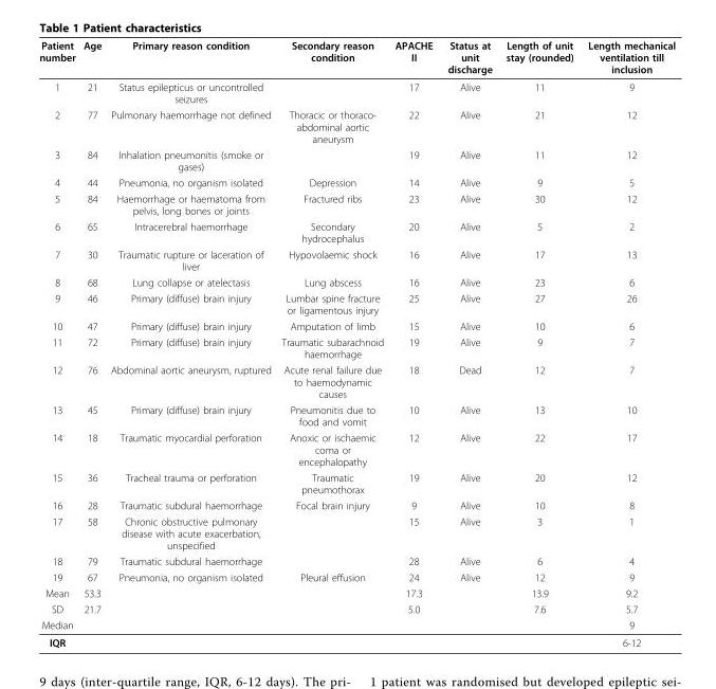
<table><thead><tr><td>Patient number</td><td>Age</td><td>Primary reason condition</td><td>Secondary reason condition</td><td>APACHE II</td><td>Status at unit discharge</td><td>Length of unit stay (rounded)</td><td>Length mechanical ventilation till inclusion</td></tr></thead><tbody><tr><td>1</td><td>21</td><td>Status epilepticus or uncontrolled seizures</td><td></td><td>17</td><td>Alive</td><td>11</td><td>9</td></tr><tr><td>2</td><td>77</td><td>Pulmonary haemorrhage not defined</td><td>Thoracic or thoraco- abdominal aortic aneurysm</td><td>22</td><td>Alive</td><td>21</td><td>12</td></tr><tr><td>3</td><td>84</td><td>Inhalation pneumonitis (smoke or gases)</td><td></td><td>19</td><td>Alive</td><td>11</td><td>12</td></tr><tr><td>4</td><td>44</td><td>Pneumonia, no organism isolated</td><td>Depression</td><td>14</td><td>Alive</td><td>9</td><td>5</td></tr><tr><td>5</td><td>84</td><td>Haemorrhage or haematoma from pelvis, long bones or joints</td><td>Fractured ribs</td><td>23</td><td>Alive</td><td>30</td><td>12</td></tr><tr><td>6</td><td>65</td><td>Intracerebral haemorrhage</td><td>Secondary hydrocephalus</td><td>20</td><td>Alive</td><td>5</td><td>2</td></tr><tr><td>7</td><td>30</td><td>Traumatic rupture or laceration of liver</td><td>Hypovolaemic shock</td><td>16</td><td>Alive</td><td>17</td><td>13</td></tr><tr><td>8</td><td>68</td><td>Lung collapse or atelectasis</td><td>Lung abscess</td><td>16</td><td>Alive</td><td>23</td><td>6</td></tr><tr><td>9</td><td>46</td><td>Primary (diffuse) brain injury</td><td>Lumbar spine fracture or ligamentous injury</td><td>25</td><td>Alive</td><td>27</td><td>26</td></tr><tr><td>10</td><td>47</td><td>Primary (diffuse) brain injury</td><td>Amputation of limb</td><td>15</td><td>Alive</td><td>10</td><td>6</td></tr><tr><td>11</td><td>72</td><td>Primary (diffuse) brain injury</td><td>Traumatic subarachnoid haemorrhage</td><td>19</td><td>Alive</td><td>9</td><td>7</td></tr><tr><td>12</td><td>76</td><td>Abdominal aortic aneurysm, ruptured</td><td>Acute renal failure due to haemodynamic causes</td><td>18</td><td>Dead</td><td>12</td><td>7</td></tr><tr><td>13</td><td>45</td><td>Primary (diffuse) brain injury</td><td>Pneumonitis due to food and vomit</td><td>10</td><td>Alive</td><td>13</td><td>10</td></tr><tr><td>14</td><td>18</td><td>Traumatic myocardial perforation</td><td>Anoxic or ischaemic coma or encephalopathy</td><td>12</td><td>Alive</td><td>22</td><td>17</td></tr><tr><td>15</td><td>36</td><td>Tracheal trauma or perforation</td><td>Traumatic pneumothorax</td><td>19</td><td>Alive</td><td>20</td><td>12</td></tr><tr><td>16</td><td>28</td><td>Traumatic subdural haemorrhage</td><td>Focal brain injury</td><td>9</td><td>Alive</td><td>10</td><td>8</td></tr><tr><td>17</td><td>58</td><td>Chronic obstructive pulmonary disease with acute exacerbation, unspecified</td><td></td><td>15</td><td>Alive</td><td>3</td><td>1</td></tr><tr><td>18</td><td>79</td><td>Traumatic subdural haemorrhage</td><td></td><td>28</td><td>Alive</td><td>6</td><td>4</td></tr><tr><td>19</td><td>67</td><td>Pneumonia, no organism isolated</td><td>Pleural effusion</td><td>24</td><td>Alive</td><td>12</td><td>9</td></tr><tr><td>Mean</td><td>53.3</td><td></td><td></td><td>17.3</td><td></td><td>13.9</td><td>9.2</td></tr><tr><td>SD</td><td>21.7</td><td></td><td></td><td>5.0</td><td></td><td>7.6</td><td>5.7</td></tr><tr><td>Median</td><td></td><td></td><td></td><td></td><td></td><td></td><td>9</td></tr><tr><td>IQR</td><td></td><td></td><td></td><td></td><td></td><td></td><td>6-12</td></tr></tbody></table>